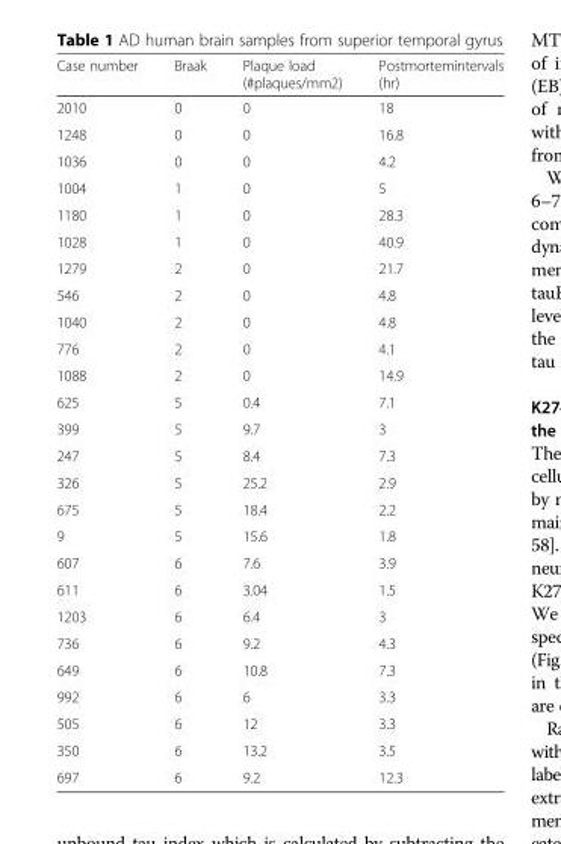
<table><thead><tr><td>Case number</td><td>Braak</td><td>Plaque load (#plaques/mm2)</td><td>Postmortemintervals (hr)</td></tr></thead><tbody><tr><td>2010</td><td>0</td><td>0</td><td>18</td></tr><tr><td>1248</td><td>0</td><td>0</td><td>16.8</td></tr><tr><td>1036</td><td>0</td><td>0</td><td>4.2</td></tr><tr><td>1004</td><td>1</td><td>0</td><td>5</td></tr><tr><td>1180</td><td>1</td><td>0</td><td>28.3</td></tr><tr><td>1028</td><td>1</td><td>0</td><td>40.9</td></tr><tr><td>1279</td><td>2</td><td>0</td><td>21.7</td></tr><tr><td>546</td><td>2</td><td>0</td><td>4.8</td></tr><tr><td>1040</td><td>2</td><td>0</td><td>4.8</td></tr><tr><td>776</td><td>2</td><td>0</td><td>4.1</td></tr><tr><td>1088</td><td>2</td><td>0</td><td>14.9</td></tr><tr><td>625</td><td>5</td><td>0.4</td><td>7.1</td></tr><tr><td>399</td><td>5</td><td>9.7</td><td>3</td></tr><tr><td>247</td><td>5</td><td>8.4</td><td>7.3</td></tr><tr><td>326</td><td>5</td><td>25.2</td><td>2.9</td></tr><tr><td>675</td><td>5</td><td>18.4</td><td>2.2</td></tr><tr><td>9</td><td>5</td><td>15.6</td><td>1.8</td></tr><tr><td>607</td><td>6</td><td>7.6</td><td>3.9</td></tr><tr><td>611</td><td>6</td><td>3.04</td><td>1.5</td></tr><tr><td>1203</td><td>6</td><td>6.4</td><td>3</td></tr><tr><td>736</td><td>6</td><td>9.2</td><td>4.3</td></tr><tr><td>649</td><td>6</td><td>10.8</td><td>7.3</td></tr><tr><td>992</td><td>6</td><td>6</td><td>3.3</td></tr><tr><td>505</td><td>6</td><td>12</td><td>3.3</td></tr><tr><td>350</td><td>6</td><td>13.2</td><td>3.5</td></tr><tr><td>697</td><td>6</td><td>9.2</td><td>12.3</td></tr></tbody></table>